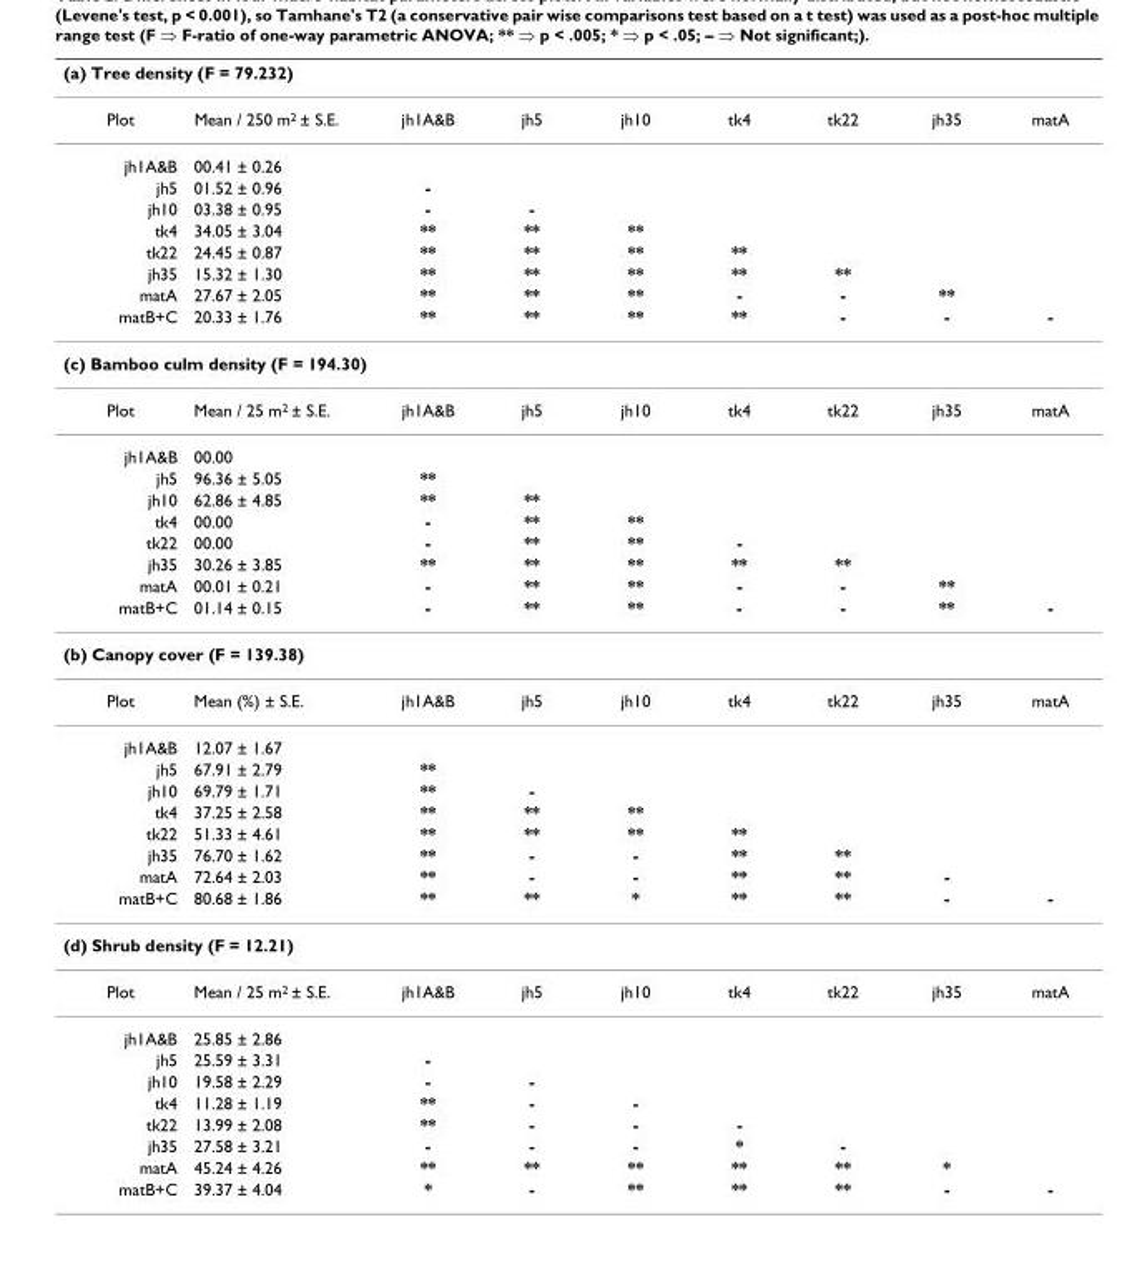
<table><thead><tr><td colspan="9">(a) Tree density (F = 79.232)</td></tr><tr><td>Plot</td><td>Mean / 250 m<sup>2</sup> ± S.E.</td><td>jh1A&amp;B</td><td>jh5</td><td>jh10</td><td>tk4</td><td>tk22</td><td>jh35</td><td>matA</td></tr></thead><tbody><tr><td>jh1A&amp;B</td><td>00.41 ± 0.26</td><td></td><td></td><td></td><td></td><td></td><td></td><td></td></tr><tr><td>jh5</td><td>01.52 ± 0.96</td><td>-</td><td></td><td></td><td></td><td></td><td></td><td></td></tr><tr><td>jh10</td><td>03.38 ± 0.95</td><td>-</td><td>-</td><td></td><td></td><td></td><td></td><td></td></tr><tr><td>tk4</td><td>34.05 ± 3.04</td><td>**</td><td>**</td><td>**</td><td></td><td></td><td></td><td></td></tr><tr><td>tk22</td><td>24.45 ± 0.87</td><td>**</td><td>**</td><td>**</td><td>**</td><td></td><td></td><td></td></tr><tr><td>jh35</td><td>15.32 ± 1.30</td><td>**</td><td>**</td><td>**</td><td>**</td><td>**</td><td></td><td></td></tr><tr><td>matA</td><td>27.67 ± 2.05</td><td>**</td><td>**</td><td>**</td><td>-</td><td>-</td><td>**</td><td></td></tr><tr><td>matB+C</td><td>20.33 ± 1.76</td><td>**</td><td>**</td><td>**</td><td>**</td><td>-</td><td>-</td><td>-</td></tr><tr><td colspan="9">(c) Bamboo culm density (F = 194.30)</td></tr><tr><td>Plot</td><td>Mean / 25 m<sup>2</sup> ± S.E.</td><td>jh1A&amp;B</td><td>jh5</td><td>jh10</td><td>tk4</td><td>tk22</td><td>jh35</td><td>matA</td></tr><tr><td>jh1A&amp;B</td><td>00.00</td><td></td><td></td><td></td><td></td><td></td><td></td><td></td></tr><tr><td>jh5</td><td>96.36 ± 5.05</td><td>**</td><td></td><td></td><td></td><td></td><td></td><td></td></tr><tr><td>jh10</td><td>62.86 ± 4.85</td><td>**</td><td>**</td><td></td><td></td><td></td><td></td><td></td></tr><tr><td>tk4</td><td>00.00</td><td>-</td><td>**</td><td>**</td><td></td><td></td><td></td><td></td></tr><tr><td>tk22</td><td>00.00</td><td>-</td><td>**</td><td>**</td><td>-</td><td></td><td></td><td></td></tr><tr><td>jh35</td><td>30.26 ± 3.85</td><td>**</td><td>**</td><td>**</td><td>**</td><td>**</td><td></td><td></td></tr><tr><td>matA</td><td>00.01 ± 0.21</td><td>-</td><td>**</td><td>**</td><td>-</td><td>-</td><td>**</td><td></td></tr><tr><td>matB+C</td><td>01.14 ± 0.15</td><td>-</td><td>**</td><td>**</td><td>-</td><td>-</td><td>**</td><td>-</td></tr><tr><td colspan="9">(b) Canopy cover (F = 139.38)</td></tr><tr><td>Plot</td><td>Mean (%) ± S.E.</td><td>jh1A&amp;B</td><td>jh5</td><td>jh10</td><td>tk4</td><td>tk22</td><td>jh35</td><td>matA</td></tr><tr><td>jh1A&amp;B</td><td>12.07 ± 1.67</td><td></td><td></td><td></td><td></td><td></td><td></td><td></td></tr><tr><td>jh5</td><td>67.91 ± 2.79</td><td>**</td><td></td><td></td><td></td><td></td><td></td><td></td></tr><tr><td>jh10</td><td>69.79 ± 1.71</td><td>**</td><td>-</td><td></td><td></td><td></td><td></td><td></td></tr><tr><td>tk4</td><td>37.25 ± 2.58</td><td>**</td><td>**</td><td>**</td><td></td><td></td><td></td><td></td></tr><tr><td>tk22</td><td>51.33 ± 4.61</td><td>**</td><td>**</td><td>**</td><td>**</td><td></td><td></td><td></td></tr><tr><td>jh35</td><td>76.70 ± 1.62</td><td>**</td><td>-</td><td>-</td><td>**</td><td>**</td><td></td><td></td></tr><tr><td>matA</td><td>72.64 ± 2.03</td><td>**</td><td>-</td><td>-</td><td>**</td><td>**</td><td>-</td><td></td></tr><tr><td>matB+C</td><td>80.68 ± 1.86</td><td>**</td><td>**</td><td>*</td><td>**</td><td>**</td><td>-</td><td>-</td></tr><tr><td colspan="9">(d) Shrub density (F = 12.21)</td></tr><tr><td>Plot</td><td>Mean / 25 m<sup>2</sup> ± S.E.</td><td>jh1A&amp;B</td><td>jh5</td><td>jh10</td><td>tk4</td><td>tk22</td><td>jh35</td><td>matA</td></tr><tr><td>jh1A&amp;B</td><td>25.85 ± 2.86</td><td></td><td></td><td></td><td></td><td></td><td></td><td></td></tr><tr><td>jh5</td><td>25.59 ± 3.31</td><td>-</td><td></td><td></td><td></td><td></td><td></td><td></td></tr><tr><td>jh10</td><td>19.58 ± 2.29</td><td>-</td><td>-</td><td></td><td></td><td></td><td></td><td></td></tr><tr><td>tk4</td><td>11.28 ± 1.19</td><td>**</td><td>-</td><td>-</td><td></td><td></td><td></td><td></td></tr><tr><td>tk22</td><td>13.99 ± 2.08</td><td>**</td><td>-</td><td>-</td><td>-</td><td></td><td></td><td></td></tr><tr><td>jh35</td><td>27.58 ± 3.21</td><td>-</td><td>-</td><td>-</td><td>*</td><td>-</td><td></td><td></td></tr><tr><td>matA</td><td>45.24 ± 4.26</td><td>**</td><td>**</td><td>**</td><td>**</td><td>**</td><td>*</td><td></td></tr><tr><td>matB+C</td><td>39.37 ± 4.04</td><td>*</td><td>-</td><td>**</td><td>**</td><td>**</td><td>-</td><td>-</td></tr></tbody></table>